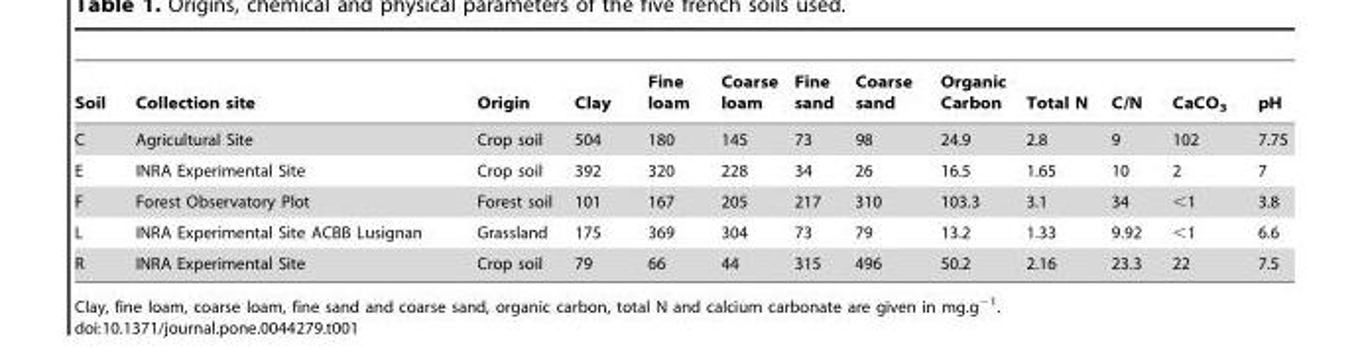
<table><thead><tr><td>Soil</td><td>Collection site</td><td>Origin</td><td>Clay</td><td>Fine loam</td><td>Coarse loam</td><td>Fine sand</td><td>Coarse sand</td><td>Organic Carbon</td><td>Total N</td><td>C/N</td><td>CaCO<sub>3</sub></td><td>pH</td></tr></thead><tbody><tr><td>C</td><td>Agricultural Site</td><td>Crop soil</td><td>504</td><td>180</td><td>145</td><td>73</td><td>98</td><td>24.9</td><td>2.8</td><td>9</td><td>102</td><td>7.75</td></tr><tr><td>E</td><td>INRA Experimental Site</td><td>Crop soil</td><td>392</td><td>320</td><td>228</td><td>34</td><td>26</td><td>16.5</td><td>1.65</td><td>10</td><td>2</td><td>7</td></tr><tr><td>F</td><td>Forest Observatory Plot</td><td>Forest soil</td><td>101</td><td>167</td><td>205</td><td>217</td><td>310</td><td>103.3</td><td>3.1</td><td>34</td><td>&lt;1</td><td>3.8</td></tr><tr><td>L</td><td>INRA Experimental Site ACBB Lusignan</td><td>Grassland</td><td>175</td><td>369</td><td>304</td><td>73</td><td>79</td><td>13.2</td><td>1.33</td><td>9.92</td><td>&lt;1</td><td>6.6</td></tr><tr><td>R</td><td>INRA Experimental Site</td><td>Crop soil</td><td>79</td><td>66</td><td>44</td><td>315</td><td>496</td><td>50.2</td><td>2.16</td><td>23.3</td><td>22</td><td>7.5</td></tr></tbody></table>